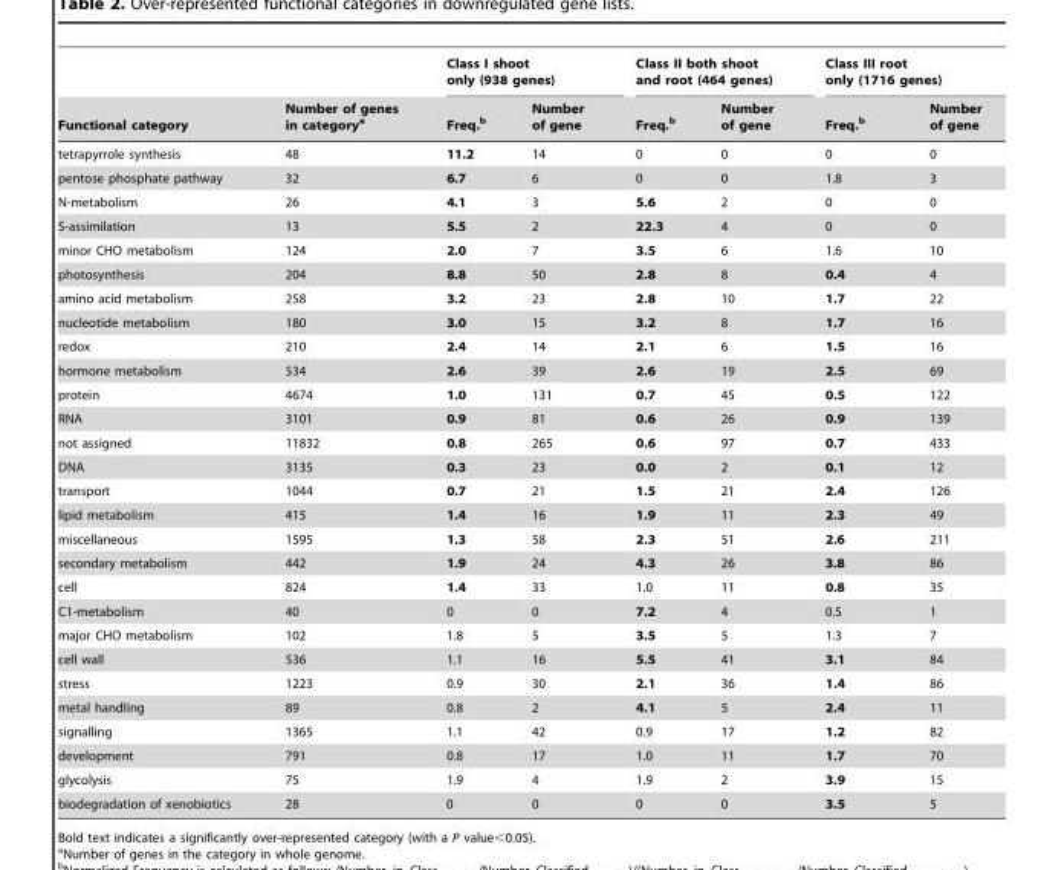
<table><thead><tr><td rowspan="2">Functional category</td><td rowspan="2">Number of genes in category<sup>a</sup></td><td colspan="2">Class I shoot only (938 genes)</td><td colspan="2">Class II both shoot and root (464 genes)</td><td colspan="2">Class III root only (1716 genes)</td></tr><tr><td>Freq.<sup>b</sup></td><td>Number of gene</td><td>Freq.<sup>b</sup></td><td>Number of gene</td><td>Freq.<sup>b</sup></td><td>Number of gene</td></tr></thead><tbody><tr><td>tetrapyrrole synthesis</td><td>48</td><td>11.2</td><td>14</td><td>0</td><td>0</td><td>0</td><td>0</td></tr><tr><td>pentose phosphate pathway</td><td>32</td><td>6.7</td><td>6</td><td>0</td><td>0</td><td>1.8</td><td>3</td></tr><tr><td>N-metabolism</td><td>26</td><td>4.1</td><td>3</td><td>5.6</td><td>2</td><td>0</td><td>0</td></tr><tr><td>S-assimilation</td><td>13</td><td>5.5</td><td>2</td><td>22.3</td><td>4</td><td>0</td><td>0</td></tr><tr><td>minor CHO metabolism</td><td>124</td><td>2.0</td><td>7</td><td>3.5</td><td>6</td><td>1.6</td><td>10</td></tr><tr><td>photosynthesis</td><td>204</td><td>8.8</td><td>50</td><td>2.8</td><td>8</td><td>0.4</td><td>4</td></tr><tr><td>amino acid metabolism</td><td>258</td><td>3.2</td><td>23</td><td>2.8</td><td>10</td><td>1.7</td><td>22</td></tr><tr><td>nucleotide metabolism</td><td>180</td><td>3.0</td><td>15</td><td>3.2</td><td>8</td><td>1.7</td><td>16</td></tr><tr><td>redox</td><td>210</td><td>2.4</td><td>14</td><td>2.1</td><td>6</td><td>1.5</td><td>16</td></tr><tr><td>hormone metabolism</td><td>534</td><td>2.6</td><td>39</td><td>2.6</td><td>19</td><td>2.5</td><td>69</td></tr><tr><td>protein</td><td>4674</td><td>1.0</td><td>131</td><td>0.7</td><td>45</td><td>0.5</td><td>122</td></tr><tr><td>RNA</td><td>3101</td><td>0.9</td><td>81</td><td>0.6</td><td>26</td><td>0.9</td><td>139</td></tr><tr><td>not assigned</td><td>11832</td><td>0.8</td><td>265</td><td>0.6</td><td>97</td><td>0.7</td><td>433</td></tr><tr><td>DNA</td><td>3135</td><td>0.3</td><td>23</td><td>0.0</td><td>2</td><td>0.1</td><td>12</td></tr><tr><td>transport</td><td>1044</td><td>0.7</td><td>21</td><td>1.5</td><td>21</td><td>2.4</td><td>126</td></tr><tr><td>lipid metabolism</td><td>415</td><td>1.4</td><td>16</td><td>1.9</td><td>11</td><td>2.3</td><td>49</td></tr><tr><td>miscellaneous</td><td>1595</td><td>1.3</td><td>58</td><td>2.3</td><td>51</td><td>2.6</td><td>211</td></tr><tr><td>secondary metabolism</td><td>442</td><td>1.9</td><td>24</td><td>4.3</td><td>26</td><td>3.8</td><td>86</td></tr><tr><td>cell</td><td>824</td><td>1.4</td><td>33</td><td>1.0</td><td>11</td><td>0.8</td><td>35</td></tr><tr><td>C1-metabolism</td><td>40</td><td>0</td><td>0</td><td>7.2</td><td>4</td><td>0.5</td><td>1</td></tr><tr><td>major CHO metabolism</td><td>102</td><td>1.8</td><td>5</td><td>3.5</td><td>5</td><td>1.3</td><td>7</td></tr><tr><td>cell wall</td><td>536</td><td>1.1</td><td>16</td><td>5.5</td><td>41</td><td>3.1</td><td>84</td></tr><tr><td>stress</td><td>1223</td><td>0.9</td><td>30</td><td>2.1</td><td>36</td><td>1.4</td><td>86</td></tr><tr><td>metal handling</td><td>89</td><td>0.8</td><td>2</td><td>4.1</td><td>5</td><td>2.4</td><td>11</td></tr><tr><td>signalling</td><td>1365</td><td>1.1</td><td>42</td><td>0.9</td><td>17</td><td>1.2</td><td>82</td></tr><tr><td>development</td><td>791</td><td>0.8</td><td>17</td><td>1.0</td><td>11</td><td>1.7</td><td>70</td></tr><tr><td>glycolysis</td><td>75</td><td>1.9</td><td>4</td><td>1.9</td><td>2</td><td>3.9</td><td>15</td></tr><tr><td>biodegradation of xenobiotics</td><td>28</td><td>0</td><td>0</td><td>0</td><td>0</td><td>3.5</td><td>5</td></tr></tbody></table>